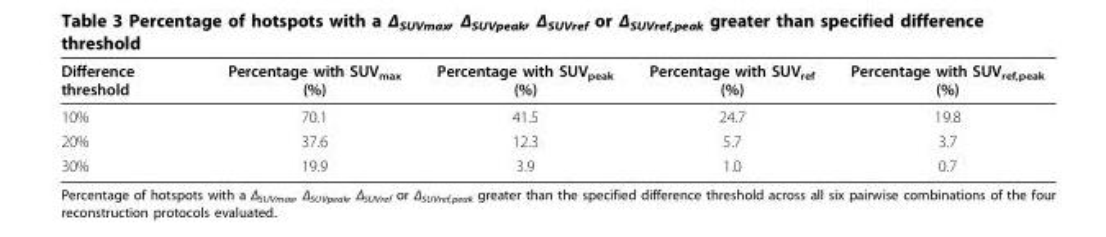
<table><thead><tr><td>Difference threshold</td><td>Percentage with SUV<sub>max</sub> (%)</td><td>Percentage with SUV<sub>peak</sub> (%)</td><td>Percentage with SUV<sub>ref</sub> (%)</td><td>Percentage with SUV<sub>ref,peak</sub> (%)</td></tr></thead><tbody><tr><td>10%</td><td>70.1</td><td>41.5</td><td>24.7</td><td>19.8</td></tr><tr><td>20%</td><td>37.6</td><td>12.3</td><td>5.7</td><td>3.7</td></tr><tr><td>30%</td><td>19.9</td><td>3.9</td><td>1.0</td><td>0.7</td></tr></tbody></table>